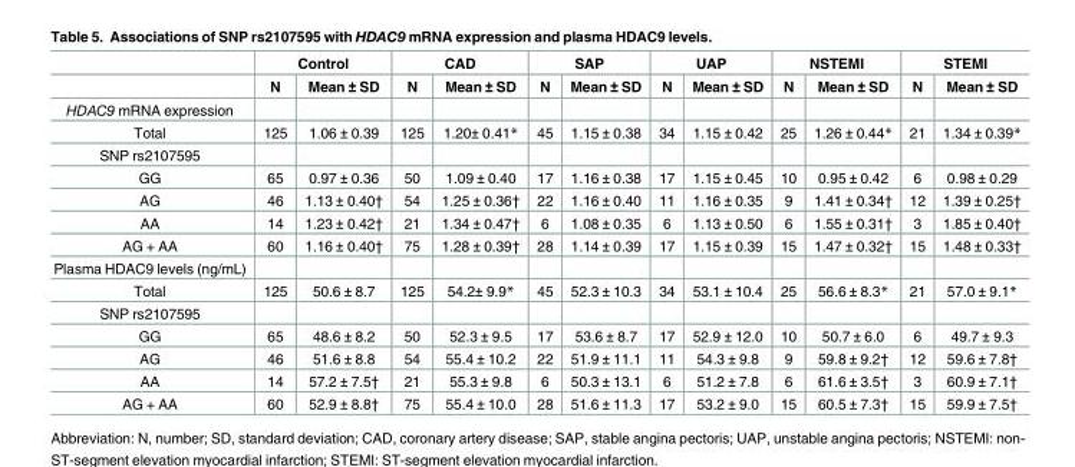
<table><thead><tr><td rowspan="2"></td><td colspan="2">Control</td><td colspan="2">CAD</td><td colspan="2">SAP</td><td colspan="2">UAP</td><td colspan="2">NSTEMI</td><td colspan="2">STEMI</td></tr><tr><td>N</td><td>Mean ± SD</td><td>N</td><td>Mean ± SD</td><td>N</td><td>Mean ± SD</td><td>N</td><td>Mean ± SD</td><td>N</td><td>Mean ± SD</td><td>N</td><td>Mean ± SD</td></tr></thead><tbody><tr><td colspan="13">HDAC9 mRNA expression</td></tr><tr><td>Total</td><td>125</td><td>1.06 ± 0.39</td><td>125</td><td>1.20± 0.41*</td><td>45</td><td>1.15 ± 0.38</td><td>34</td><td>1.15 ± 0.42</td><td>25</td><td>1.26 ± 0.44*</td><td>21</td><td>1.34 ± 0.39*</td></tr><tr><td colspan="13">SNP rs2107595</td></tr><tr><td>GG</td><td>65</td><td>0.97 ± 0.36</td><td>50</td><td>1.09 ± 0.40</td><td>17</td><td>1.16 ± 0.38</td><td>17</td><td>1.15 ± 0.45</td><td>10</td><td>0.95 ± 0.42</td><td>6</td><td>0.98 ± 0.29</td></tr><tr><td>AG</td><td>46</td><td>1.13 ± 0.40†</td><td>54</td><td>1.25 ± 0.36†</td><td>22</td><td>1.16 ± 0.40</td><td>11</td><td>1.16 ± 0.35</td><td>9</td><td>1.41 ± 0.34†</td><td>12</td><td>1.39 ± 0.25†</td></tr><tr><td>AA</td><td>14</td><td>1.23 ± 0.42†</td><td>21</td><td>1.34 ± 0.47†</td><td>6</td><td>1.08 ± 0.35</td><td>6</td><td>1.13 ± 0.50</td><td>6</td><td>1.55 ± 0.31†</td><td>3</td><td>1.85 ± 0.40†</td></tr><tr><td>AG + AA</td><td>60</td><td>1.16 ± 0.40†</td><td>75</td><td>1.28 ± 0.39†</td><td>28</td><td>1.14 ± 0.39</td><td>17</td><td>1.15 ± 0.39</td><td>15</td><td>1.47 ± 0.32†</td><td>15</td><td>1.48 ± 0.33†</td></tr><tr><td colspan="13">Plasma HDAC9 levels (ng/mL)</td></tr><tr><td>Total</td><td>125</td><td>50.6 ± 8.7</td><td>125</td><td>54.2± 9.9*</td><td>45</td><td>52.3 ± 10.3</td><td>34</td><td>53.1 ± 10.4</td><td>25</td><td>56.6 ± 8.3*</td><td>21</td><td>57.0 ± 9.1*</td></tr><tr><td colspan="13">SNP rs2107595</td></tr><tr><td>GG</td><td>65</td><td>48.6 ± 8.2</td><td>50</td><td>52.3 ± 9.5</td><td>17</td><td>53.6 ± 8.7</td><td>17</td><td>52.9 ± 12.0</td><td>10</td><td>50.7 ± 6.0</td><td>6</td><td>49.7 ± 9.3</td></tr><tr><td>AG</td><td>46</td><td>51.6 ± 8.8</td><td>54</td><td>55.4 ± 10.2</td><td>22</td><td>51.9 ± 11.1</td><td>11</td><td>54.3 ± 9.8</td><td>9</td><td>59.8 ± 9.2†</td><td>12</td><td>59.6 ± 7.8†</td></tr><tr><td>AA</td><td>14</td><td>57.2 ± 7.5†</td><td>21</td><td>55.3 ± 9.8</td><td>6</td><td>50.3 ± 13.1</td><td>6</td><td>51.2 ± 7.8</td><td>6</td><td>61.6 ± 3.5†</td><td>3</td><td>60.9 ± 7.1†</td></tr><tr><td>AG + AA</td><td>60</td><td>52.9 ± 8.8†</td><td>75</td><td>55.4 ± 10.0</td><td>28</td><td>51.6 ± 11.3</td><td>17</td><td>53.2 ± 9.0</td><td>15</td><td>60.5 ± 7.3†</td><td>15</td><td>59.9 ± 7.5†</td></tr></tbody></table>